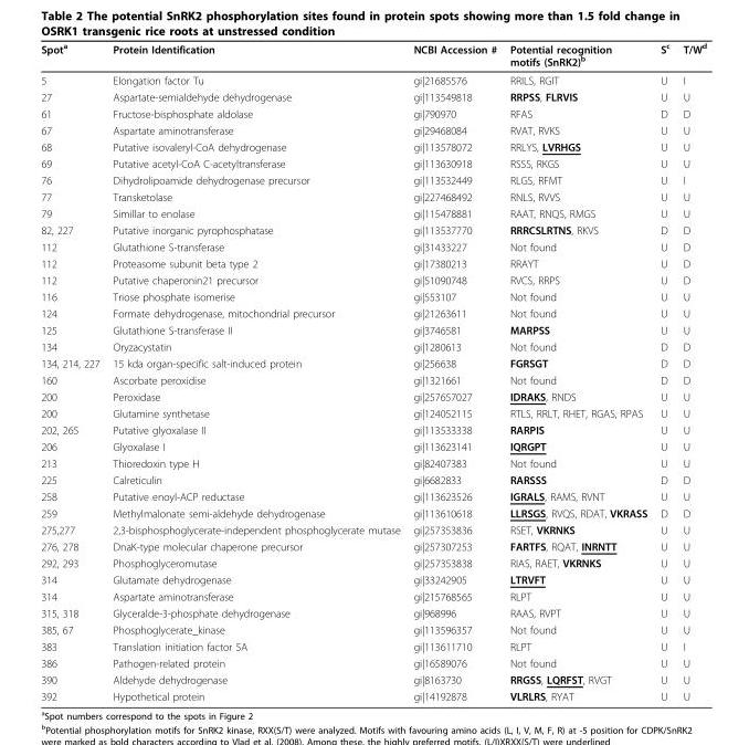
<table><thead><tr><td>Spot<sup>a</sup></td><td>Protein Identification</td><td>NCBI Accession #</td><td>Potential recognition motifs (SnRK2)<sup>b</sup></td><td>S<sup>c</sup></td><td>T/W<sup>d</sup></td></tr></thead><tbody><tr><td>5</td><td>Elongation factor Tu</td><td>gi|21685576</td><td>RRILS, RGIT</td><td>U</td><td>I</td></tr><tr><td>27</td><td>Aspartate-semialdehyde dehydrogenase</td><td>gi|113549818</td><td>RRPSS, FLRVIS</td><td>U</td><td>U</td></tr><tr><td>61</td><td>Fructose-bisphosphate aldolase</td><td>gi|790970</td><td>RFAS</td><td>D</td><td>D</td></tr><tr><td>67</td><td>Aspartate aminotransferase</td><td>gi|29468084</td><td>RVAT, RVKS</td><td>U</td><td>U</td></tr><tr><td>68</td><td>Putative isovaleryl-CoA dehydrogenase</td><td>gi|113578072</td><td>RRLYS, LVRHGS</td><td>U</td><td>U</td></tr><tr><td>69</td><td>Putative acetyl-CoA C-acetyltransferase</td><td>gi|113630918</td><td>RSSS, RKGS</td><td>U</td><td>U</td></tr><tr><td>76</td><td>Dihydrolipoamide dehydrogenase precursor</td><td>gi|113532449</td><td>RLGS, RFMT</td><td>U</td><td>I</td></tr><tr><td>77</td><td>Transketolase</td><td>gi|227468492</td><td>RNLS, RVVS</td><td>U</td><td>U</td></tr><tr><td>79</td><td>Simillar to enolase</td><td>gi|115478881</td><td>RAAT, RNQS, RMGS</td><td>U</td><td>U</td></tr><tr><td>82, 227</td><td>Putative inorganic pyrophosphatase</td><td>gi|113537770</td><td>RRRCSLRTNS, RKVS</td><td>D</td><td>D</td></tr><tr><td>112</td><td>Glutathione S-transferase</td><td>gi|31433227</td><td>Not found</td><td>U</td><td>D</td></tr><tr><td>112</td><td>Proteasome subunit beta type 2</td><td>gi|17380213</td><td>RRAYT</td><td>U</td><td>D</td></tr><tr><td>112</td><td>Putative chaperonin21 precursor</td><td>gi|51090748</td><td>RVCS, RRPS</td><td>U</td><td>D</td></tr><tr><td>116</td><td>Triose phosphate isomerise</td><td>gi|553107</td><td>Not found</td><td>U</td><td>U</td></tr><tr><td>124</td><td>Formate dehydrogenase, mitochondrial precursor</td><td>gi|21263611</td><td>Not found</td><td>U</td><td>U</td></tr><tr><td>125</td><td>Glutathione S-transferase II</td><td>gi|3746581</td><td>MARPSS</td><td>U</td><td>U</td></tr><tr><td>134</td><td>Oryzacystatin</td><td>gi|1280613</td><td>Not found</td><td>D</td><td>D</td></tr><tr><td>134, 214, 227</td><td>15 kda organ-specific salt-induced protein</td><td>gi|256638</td><td>FGRSGT</td><td>D</td><td>D</td></tr><tr><td>160</td><td>Ascorbate peroxidise</td><td>gi|1321661</td><td>Not found</td><td>D</td><td>D</td></tr><tr><td>200</td><td>Peroxidase</td><td>gi|257657027</td><td>IDRAKS, RNDS</td><td>U</td><td>U</td></tr><tr><td>200</td><td>Glutamine synthetase</td><td>gi|124052115</td><td>RTLS, RRLT, RHET, RGAS, RPAS</td><td>U</td><td>U</td></tr><tr><td>202, 265</td><td>Putative glyoxalase II</td><td>gi|113533338</td><td>RARPIS</td><td>U</td><td>U</td></tr><tr><td>206</td><td>Glyoxalase I</td><td>gi|113623141</td><td>IQRGPT</td><td>U</td><td>U</td></tr><tr><td>213</td><td>Thioredoxin type H</td><td>gi|82407383</td><td>Not found</td><td>U</td><td>U</td></tr><tr><td>225</td><td>Calreticulin</td><td>gi|6682833</td><td>RARSSS</td><td>D</td><td>D</td></tr><tr><td>258</td><td>Putative enoyl-ACP reductase</td><td>gi|113623526</td><td>IGRALS, RAMS, RVNT</td><td>U</td><td>U</td></tr><tr><td>259</td><td>Methylmalonate semi-aldehyde dehydrogenase</td><td>gi|113610618</td><td>LLRSGS, RVQS, RDAT, VKRASS</td><td>D</td><td>D</td></tr><tr><td>275,277</td><td>2,3-bisphosphoglycerate-independent phosphoglycerate mutase</td><td>gi|257353836</td><td>RSET, VKRNKS</td><td>U</td><td>U</td></tr><tr><td>276, 278</td><td>DnaK-type molecular chaperone precursor</td><td>gi|257307253</td><td>FARTFS, RQAT, INRNTT</td><td>U</td><td>U</td></tr><tr><td>292, 293</td><td>Phosphoglyceromutase</td><td>gi|257353838</td><td>RIAS, RAET, VKRNKS</td><td>U</td><td>U</td></tr><tr><td>314</td><td>Glutamate dehydrogenase</td><td>gi|33242905</td><td>LTRVFT</td><td>U</td><td>U</td></tr><tr><td>314</td><td>Aspartate aminotransferase</td><td>gi|215768565</td><td>RLPT</td><td>U</td><td>U</td></tr><tr><td>315, 318</td><td>Glyceralde-3-phosphate dehydrogenase</td><td>gi|968996</td><td>RAAS, RVPT</td><td>U</td><td>U</td></tr><tr><td>385, 67</td><td>Phosphoglycerate_kinase</td><td>gi|113596357</td><td>Not found</td><td>U</td><td>U</td></tr><tr><td>383</td><td>Translation initiation factor 5A</td><td>gi|113611710</td><td>RLPT</td><td>U</td><td>I</td></tr><tr><td>386</td><td>Pathogen-related protein</td><td>gi|16589076</td><td>Not found</td><td>U</td><td>U</td></tr><tr><td>390</td><td>Aldehyde dehydrogenase</td><td>gi|8163730</td><td>RRGSS, LQRFST, RVGT</td><td>U</td><td>U</td></tr><tr><td>392</td><td>Hypothetical protein</td><td>gi|14192878</td><td>VLRLRS, RYAT</td><td>U</td><td>U</td></tr></tbody></table>